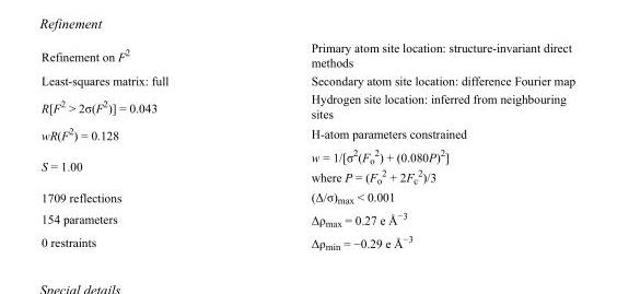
<table><tbody><tr><td>Refinement on F<sup>2</sup></td><td>Primary atom site location: structure-invariant direct methods</td></tr><tr><td>Least-squares matrix: full</td><td>Secondary atom site location: difference Fourier map</td></tr><tr><td>R[F<sup>2</sup> &gt; 2σ(F<sup>2</sup>)] = 0.043</td><td>Hydrogen site location: inferred from neighbouring sites</td></tr><tr><td>wR(F<sup>2</sup>) = 0.128</td><td>H-atom parameters constrained</td></tr><tr><td>S = 1.00</td><td>w = 1/[σ<sup>2</sup>(F<sub>o</sub> <sup>2</sup>) + (0.080P)<sup>2</sup>] where P = (F<sub>o</sub> <sup>2</sup> + 2F<sub>c</sub> <sup>2</sup>)/3</td></tr><tr><td>1709 reflections</td><td>(Δ/σ)<sub>max</sub> &lt; 0.001</td></tr><tr><td>154 parameters</td><td>Δρ<sub>max</sub> = 0.27 e Å<sup>−3</sup></td></tr><tr><td>0 restraints</td><td>Δρ<sub>min</sub> = −0.29 e Å<sup>−3</sup></td></tr></tbody></table>